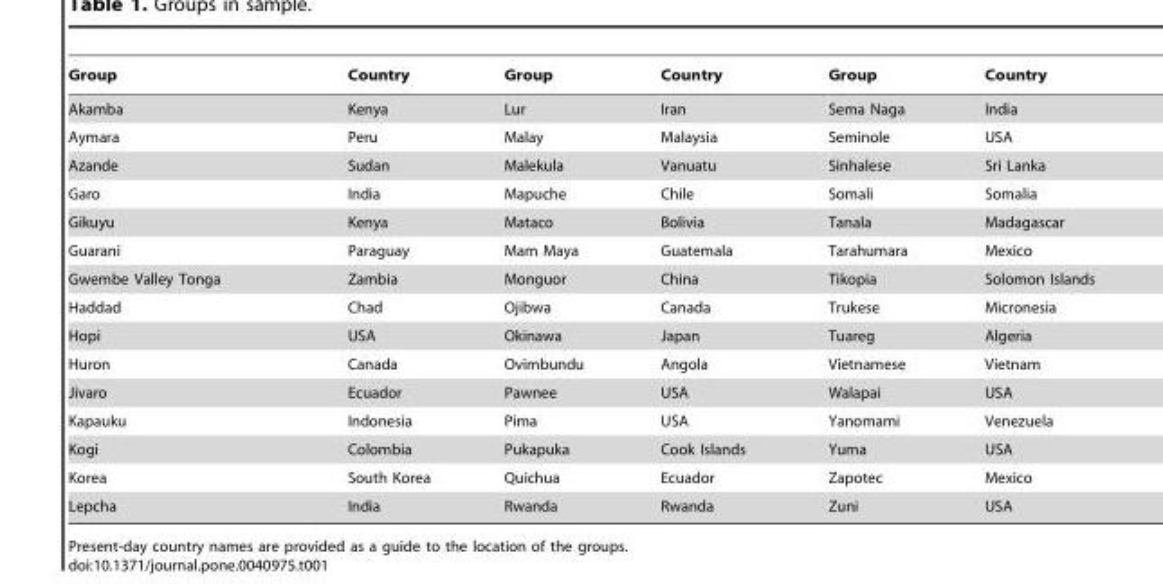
<table><thead><tr><td>Group</td><td>Country</td><td>Group</td><td>Country</td><td>Group</td><td>Country</td></tr></thead><tbody><tr><td>Akamba</td><td>Kenya</td><td>Lur</td><td>Iran</td><td>Sema Naga</td><td>India</td></tr><tr><td>Aymara</td><td>Peru</td><td>Malay</td><td>Malaysia</td><td>Seminole</td><td>USA</td></tr><tr><td>Azande</td><td>Sudan</td><td>Malekula</td><td>Vanuatu</td><td>Sinhalese</td><td>Sri Lanka</td></tr><tr><td>Garo</td><td>India</td><td>Mapuche</td><td>Chile</td><td>Somali</td><td>Somalia</td></tr><tr><td>Gikuyu</td><td>Kenya</td><td>Mataco</td><td>Bolivia</td><td>Tanala</td><td>Madagascar</td></tr><tr><td>Guarani</td><td>Paraguay</td><td>Mam Maya</td><td>Guatemala</td><td>Tarahumara</td><td>Mexico</td></tr><tr><td>Gwembe Valley Tonga</td><td>Zambia</td><td>Monguor</td><td>China</td><td>Tikopia</td><td>Solomon Islands</td></tr><tr><td>Haddad</td><td>Chad</td><td>Ojibwa</td><td>Canada</td><td>Trukese</td><td>Micronesia</td></tr><tr><td>Hopi</td><td>USA</td><td>Okinawa</td><td>Japan</td><td>Tuareg</td><td>Algeria</td></tr><tr><td>Huron</td><td>Canada</td><td>Ovimbundu</td><td>Angola</td><td>Vietnamese</td><td>Vietnam</td></tr><tr><td>Jivaro</td><td>Ecuador</td><td>Pawnee</td><td>USA</td><td>Walapai</td><td>USA</td></tr><tr><td>Kapauku</td><td>Indonesia</td><td>Pima</td><td>USA</td><td>Yanomami</td><td>Venezuela</td></tr><tr><td>Kogi</td><td>Colombia</td><td>Pukapuka</td><td>Cook Islands</td><td>Yuma</td><td>USA</td></tr><tr><td>Korea</td><td>South Korea</td><td>Quichua</td><td>Ecuador</td><td>Zapotec</td><td>Mexico</td></tr><tr><td>Lepcha</td><td>India</td><td>Rwanda</td><td>Rwanda</td><td>Zuni</td><td>USA</td></tr></tbody></table>